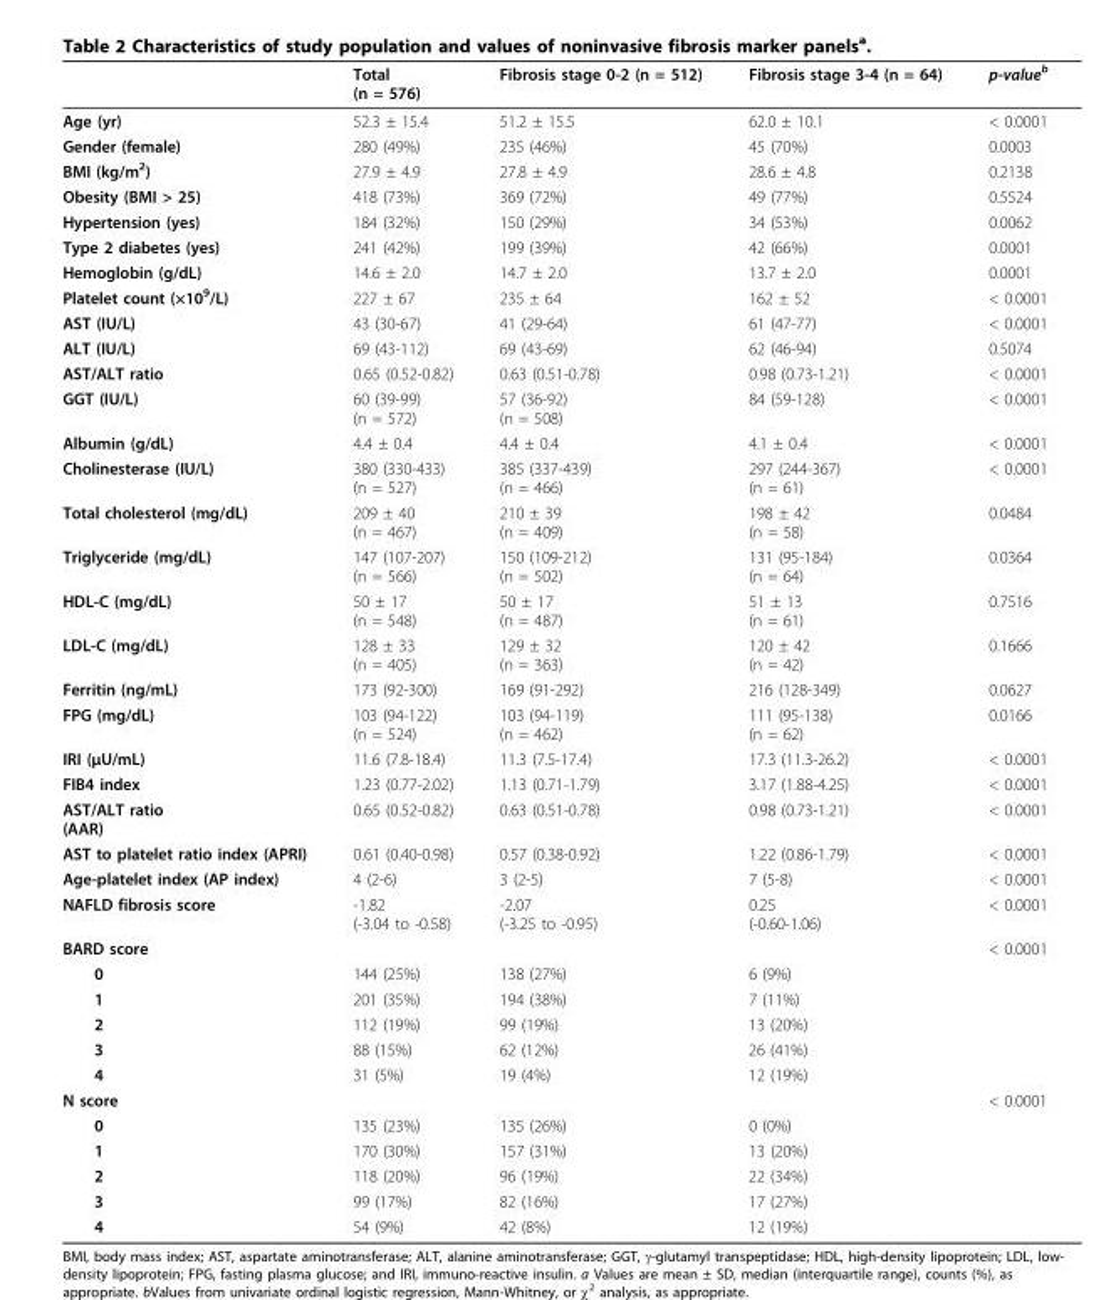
<table><thead><tr><td></td><td>Total (n = 576)</td><td>Fibrosis stage 0-2 (n = 512)</td><td>Fibrosis stage 3-4 (n = 64)</td><td>p-value<sup>b</sup></td></tr></thead><tbody><tr><td>Age (yr)</td><td>52.3 ± 15.4</td><td>51.2 ± 15.5</td><td>62.0 ± 10.1</td><td>&lt; 0.0001</td></tr><tr><td>Gender (female)</td><td>280 (49%)</td><td>235 (46%)</td><td>45 (70%)</td><td>0.0003</td></tr><tr><td>BMI (kg/m<sup>2</sup>)</td><td>27.9 ± 4.9</td><td>27.8 ± 4.9</td><td>28.6 ± 4.8</td><td>0.2138</td></tr><tr><td>Obesity (BMI &gt; 25)</td><td>418 (73%)</td><td>369 (72%)</td><td>49 (77%)</td><td>0.5524</td></tr><tr><td>Hypertension (yes)</td><td>184 (32%)</td><td>150 (29%)</td><td>34 (53%)</td><td>0.0062</td></tr><tr><td>Type 2 diabetes (yes)</td><td>241 (42%)</td><td>199 (39%)</td><td>42 (66%)</td><td>0.0001</td></tr><tr><td>Hemoglobin (g/dL)</td><td>14.6 ± 2.0</td><td>14.7 ± 2.0</td><td>13.7 ± 2.0</td><td>0.0001</td></tr><tr><td>Platelet count (×10<sup>9</sup>/L)</td><td>227 ± 67</td><td>235 ± 64</td><td>162 ± 52</td><td>&lt; 0.0001</td></tr><tr><td>AST (IU/L)</td><td>43 (30-67)</td><td>41 (29-64)</td><td>61 (47-77)</td><td>&lt; 0.0001</td></tr><tr><td>ALT (IU/L)</td><td>69 (43-112)</td><td>69 (43-69)</td><td>62 (46-94)</td><td>0.5074</td></tr><tr><td>AST/ALT ratio</td><td>0.65 (0.52-0.82)</td><td>0.63 (0.51-0.78)</td><td>0.98 (0.73-1.21)</td><td>&lt; 0.0001</td></tr><tr><td>GGT (IU/L)</td><td>60 (39-99) (n = 572)</td><td>57 (36-92) (n = 508)</td><td>84 (59-128)</td><td>&lt; 0.0001</td></tr><tr><td>Albumin (g/dL)</td><td>4.4 ± 0.4</td><td>4.4 ± 0.4</td><td>4.1 ± 0.4</td><td>&lt; 0.0001</td></tr><tr><td>Cholinesterase (IU/L)</td><td>380 (330-433) (n = 527)</td><td>385 (337-439) (n = 466)</td><td>297 (244-367) (n = 61)</td><td>&lt; 0.0001</td></tr><tr><td>Total cholesterol (mg/dL)</td><td>209 ± 40 (n = 467)</td><td>210 ± 39 (n = 409)</td><td>198 ± 42 (n = 58)</td><td>0.0484</td></tr><tr><td>Triglyceride (mg/dL)</td><td>147 (107-207) (n = 566)</td><td>150 (109-212) (n = 502)</td><td>131 (95-184) (n = 64)</td><td>0.0364</td></tr><tr><td>HDL-C (mg/dL)</td><td>50 ± 17 (n = 548)</td><td>50 ± 17 (n = 487)</td><td>51 ± 13 (n = 61)</td><td>0.7516</td></tr><tr><td>LDL-C (mg/dL)</td><td>128 ± 33 (n = 405)</td><td>129 ± 32 (n = 363)</td><td>120 ± 42 (n = 42)</td><td>0.1666</td></tr><tr><td>Ferritin (ng/mL)</td><td>173 (92-300)</td><td>169 (91-292)</td><td>216 (128-349)</td><td>0.0627</td></tr><tr><td>FPG (mg/dL)</td><td>103 (94-122) (n = 524)</td><td>103 (94-119) (n = 462)</td><td>111 (95-138) (n = 62)</td><td>0.0166</td></tr><tr><td>IRI (μU/mL)</td><td>11.6 (7.8-18.4)</td><td>11.3 (7.5-17.4)</td><td>17.3 (11.3-26.2)</td><td>&lt; 0.0001</td></tr><tr><td>FIB4 index</td><td>1.23 (0.77-2.02)</td><td>1.13 (0.71-1.79)</td><td>3.17 (1.88-4.25)</td><td>&lt; 0.0001</td></tr><tr><td>AST/ALT ratio (AAR)</td><td>0.65 (0.52-0.82)</td><td>0.63 (0.51-0.78)</td><td>0.98 (0.73-1.21)</td><td>&lt; 0.0001</td></tr><tr><td>AST to platelet ratio index (APRI)</td><td>0.61 (0.40-0.98)</td><td>0.57 (0.38-0.92)</td><td>1.22 (0.86-1.79)</td><td>&lt; 0.0001</td></tr><tr><td>Age-platelet index (AP index)</td><td>4 (2-6)</td><td>3 (2-5)</td><td>7 (5-8)</td><td>&lt; 0.0001</td></tr><tr><td>NAFLD fibrosis score</td><td>-1.82 (-3.04 to -0.58)</td><td>-2.07 (-3.25 to -0.95)</td><td>0.25 (-0.60-1.06)</td><td>&lt; 0.0001</td></tr><tr><td>BARD score</td><td></td><td></td><td></td><td>&lt; 0.0001</td></tr><tr><td>0</td><td>144 (25%)</td><td>138 (27%)</td><td>6 (9%)</td><td></td></tr><tr><td>1</td><td>201 (35%)</td><td>194 (38%)</td><td>7 (11%)</td><td></td></tr><tr><td>2</td><td>112 (19%)</td><td>99 (19%)</td><td>13 (20%)</td><td></td></tr><tr><td>3</td><td>88 (15%)</td><td>62 (12%)</td><td>26 (41%)</td><td></td></tr><tr><td>4</td><td>31 (5%)</td><td>19 (4%)</td><td>12 (19%)</td><td></td></tr><tr><td>N score</td><td></td><td></td><td></td><td>&lt; 0.0001</td></tr><tr><td>0</td><td>135 (23%)</td><td>135 (26%)</td><td>0 (0%)</td><td></td></tr><tr><td>1</td><td>170 (30%)</td><td>157 (31%)</td><td>13 (20%)</td><td></td></tr><tr><td>2</td><td>118 (20%)</td><td>96 (19%)</td><td>22 (34%)</td><td></td></tr><tr><td>3</td><td>99 (17%)</td><td>82 (16%)</td><td>17 (27%)</td><td></td></tr><tr><td>4</td><td>54 (9%)</td><td>42 (8%)</td><td>12 (19%)</td><td></td></tr></tbody></table>